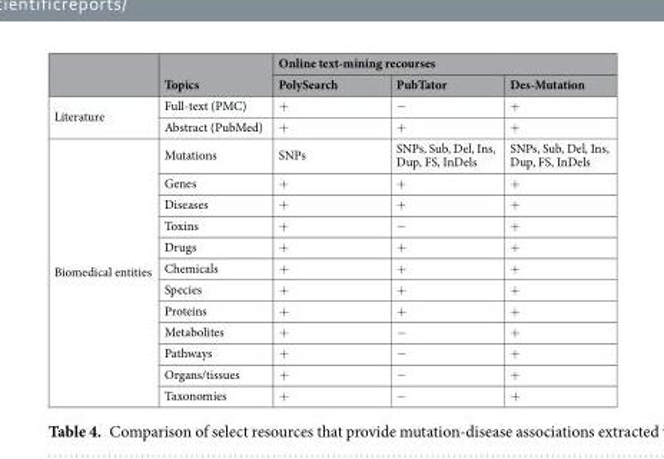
<table><thead><tr><td rowspan="2"></td><td rowspan="2">Topics</td><td colspan="3">Online text-mining recourses</td></tr><tr><td>PolySearch</td><td>PubTator</td><td>Des-Mutation</td></tr></thead><tbody><tr><td rowspan="2">Literature</td><td>Full-text (PMC)</td><td>+</td><td>−</td><td>+</td></tr><tr><td>Abstract (PubMed)</td><td>+</td><td>+</td><td>+</td></tr><tr><td rowspan="12">Biomedical entities</td><td>Mutations</td><td>SNPs</td><td>SNPs, Sub, Del, Ins, Dup, FS, InDels</td><td>SNPs, Sub, Del, Ins, Dup, FS, InDels</td></tr><tr><td>Genes</td><td>+</td><td>+</td><td>+</td></tr><tr><td>Diseases</td><td>+</td><td>+</td><td>+</td></tr><tr><td>Toxins</td><td>+</td><td>−</td><td>+</td></tr><tr><td>Drugs</td><td>+</td><td>+</td><td>+</td></tr><tr><td>Chemicals</td><td>+</td><td>+</td><td>+</td></tr><tr><td>Species</td><td>+</td><td>+</td><td>+</td></tr><tr><td>Proteins</td><td>+</td><td>+</td><td>+</td></tr><tr><td>Metabolites</td><td>+</td><td>−</td><td>+</td></tr><tr><td>Pathways</td><td>+</td><td>−</td><td>+</td></tr><tr><td>Organs/tissues</td><td>+</td><td>−</td><td>+</td></tr><tr><td>Taxonomies</td><td>+</td><td>−</td><td>+</td></tr></tbody></table>